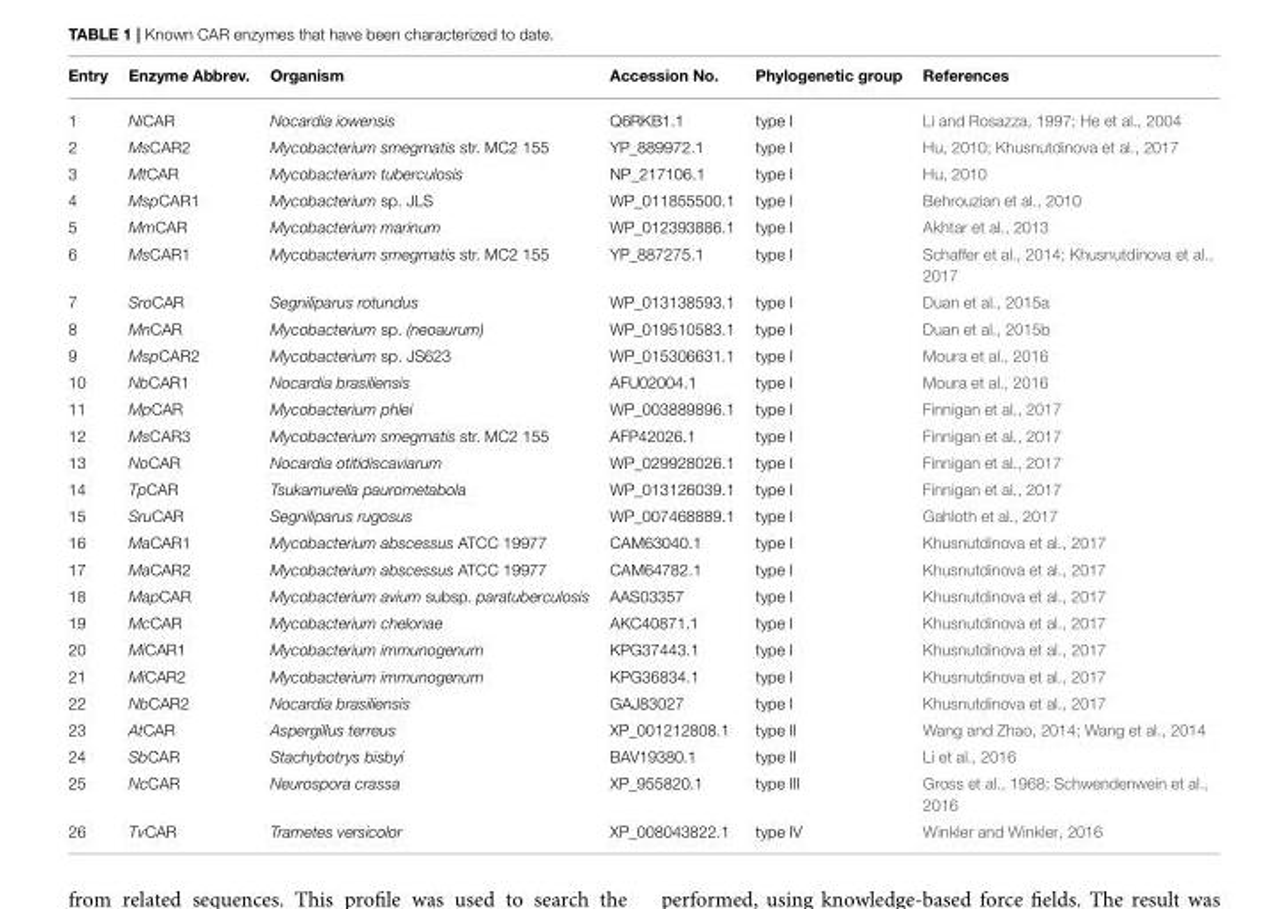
<table><thead><tr><td>Entry</td><td>Enzyme Abbrev.</td><td>Organism</td><td>Accession No.</td><td>Phylogenetic group</td><td>References</td></tr></thead><tbody><tr><td>1</td><td>NiCAR</td><td>Nocardia iowensis</td><td>Q6RKB1.1</td><td>type I</td><td>Li and Rosazza, 1997; He et al., 2004</td></tr><tr><td>2</td><td>MsCAR2</td><td>Mycobacterium smegmatis str. MC2 155</td><td>YP_889972.1</td><td>type I</td><td>Hu, 2010; Khusnutdinova et al., 2017</td></tr><tr><td>3</td><td>MtCAR</td><td>Mycobacterium tuberculosis</td><td>NP_217106.1</td><td>type I</td><td>Hu, 2010</td></tr><tr><td>4</td><td>MspCAR1</td><td>Mycobacterium sp. JLS</td><td>WP_011855500.1</td><td>type I</td><td>Behrouzian et al., 2010</td></tr><tr><td>5</td><td>MmCAR</td><td>Mycobacterium marinum</td><td>WP_012393886.1</td><td>type I</td><td>Akhtar et al., 2013</td></tr><tr><td>6</td><td>MsCAR1</td><td>Mycobacterium smegmatis str. MC2 155</td><td>YP_887275.1</td><td>type I</td><td>Schaffer et al., 2014; Khusnutdinova et al., 2017</td></tr><tr><td>7</td><td>SroCAR</td><td>Segniliparus rotundus</td><td>WP_013138593.1</td><td>type I</td><td>Duan et al., 2015a</td></tr><tr><td>8</td><td>MnCAR</td><td>Mycobacterium sp. (neoaurum)</td><td>WP_019510583.1</td><td>type I</td><td>Duan et al., 2015b</td></tr><tr><td>9</td><td>MspCAR2</td><td>Mycobacterium sp. JS623</td><td>WP_015306631.1</td><td>type I</td><td>Moura et al., 2016</td></tr><tr><td>10</td><td>NbCAR1</td><td>Nocardia brasiliensis</td><td>AFU02004.1</td><td>type I</td><td>Moura et al., 2016</td></tr><tr><td>11</td><td>MpCAR</td><td>Mycobacterium phlei</td><td>WP_003889896.1</td><td>type I</td><td>Finnigan et al., 2017</td></tr><tr><td>12</td><td>MsCAR3</td><td>Mycobacterium smegmatis str. MC2 155</td><td>AFP42026.1</td><td>type I</td><td>Finnigan et al., 2017</td></tr><tr><td>13</td><td>NoCAR</td><td>Nocardia otitidiscaviarum</td><td>WP_029928026.1</td><td>type I</td><td>Finnigan et al., 2017</td></tr><tr><td>14</td><td>TpCAR</td><td>Tsukamurella paurometabola</td><td>WP_013126039.1</td><td>type I</td><td>Finnigan et al., 2017</td></tr><tr><td>15</td><td>SruCAR</td><td>Segniliparus rugosus</td><td>WP_007468889.1</td><td>type I</td><td>Gahloth et al., 2017</td></tr><tr><td>16</td><td>MaCAR1</td><td>Mycobacterium abscessus ATCC 19977</td><td>CAM63040.1</td><td>type I</td><td>Khusnutdinova et al., 2017</td></tr><tr><td>17</td><td>MaCAR2</td><td>Mycobacterium abscessus ATCC 19977</td><td>CAM64782.1</td><td>type I</td><td>Khusnutdinova et al., 2017</td></tr><tr><td>18</td><td>MapCAR</td><td>Mycobacterium avium subsp. paratuberculosis</td><td>AAS03357</td><td>type I</td><td>Khusnutdinova et al., 2017</td></tr><tr><td>19</td><td>McCAR</td><td>Mycobacterium chelonae</td><td>AKC40871.1</td><td>type I</td><td>Khusnutdinova et al., 2017</td></tr><tr><td>20</td><td>MiCAR1</td><td>Mycobacterium immunogenum</td><td>KPG37443.1</td><td>type I</td><td>Khusnutdinova et al., 2017</td></tr><tr><td>21</td><td>MiCAR2</td><td>Mycobacterium immunogenum</td><td>KPG36834.1</td><td>type I</td><td>Khusnutdinova et al., 2017</td></tr><tr><td>22</td><td>NbCAR2</td><td>Nocardia brasiliensis</td><td>GAJ83027</td><td>type I</td><td>Khusnutdinova et al., 2017</td></tr><tr><td>23</td><td>AtCAR</td><td>Aspergillus terreus</td><td>XP_001212808.1</td><td>type II</td><td>Wang and Zhao, 2014; Wang et al., 2014</td></tr><tr><td>24</td><td>SbCAR</td><td>Stachybotrys bisbyi</td><td>BAV19380.1</td><td>type II</td><td>Li et al., 2016</td></tr><tr><td>25</td><td>NcCAR</td><td>Neurospora crassa</td><td>XP_955820.1</td><td>type III</td><td>Gross et al., 1968; Schwendenwein et al., 2016</td></tr><tr><td>26</td><td>TvCAR</td><td>Trametes versicolor</td><td>XP_008043822.1</td><td>type IV</td><td>Winkler and Winkler, 2016</td></tr></tbody></table>